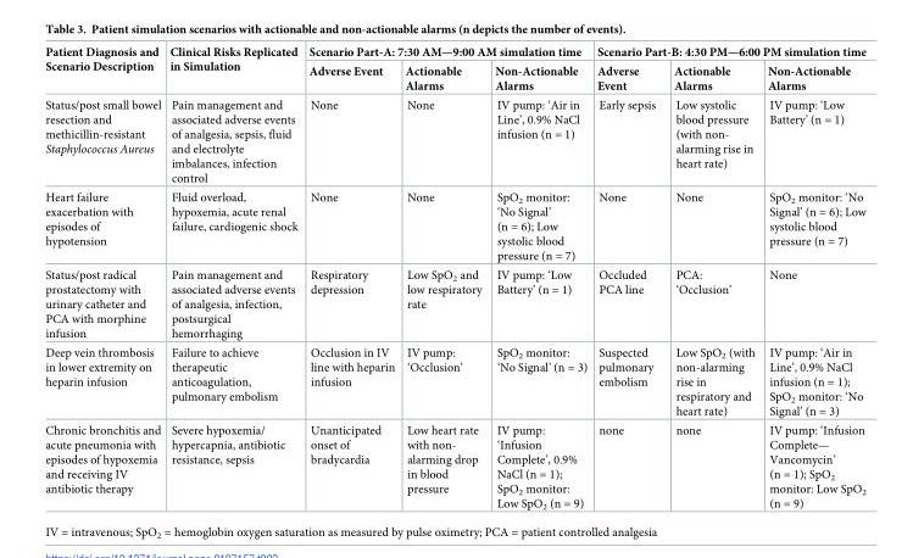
<table><thead><tr><td rowspan="2">Patient Diagnosis and Scenario Description</td><td rowspan="2">Clinical Risks Replicated in Simulation</td><td colspan="3">Scenario Part-A: 7:30 AM—9:00 AM simulation time</td><td colspan="3">Scenario Part-B: 4:30 PM—6:00 PM simulation time</td></tr><tr><td>Adverse Event</td><td>Actionable Alarms</td><td>Non-Actionable Alarms</td><td>Adverse Event</td><td>Actionable Alarms</td><td>Non-Actionable Alarms</td></tr></thead><tbody><tr><td>Status/post small bowel resection and methicillin-resistant Staphylococcus Aureus</td><td>Pain management and associated adverse events of analgesia, sepsis, fluid and electrolyte imbalances, infection control</td><td>None</td><td>None</td><td>IV pump: ‘Air in Line’, 0.9% NaCl infusion (n = 1)</td><td>Early sepsis</td><td>Low systolic blood pressure (with non- alarming rise in heart rate)</td><td>IV pump: ‘Low Battery’ (n = 1)</td></tr><tr><td>Heart failure exacerbation with episodes of hypotension</td><td>Fluid overload, hypoxemia, acute renal failure, cardiogenic shock</td><td>None</td><td>None</td><td>SpO<sub>2</sub> monitor: ‘No Signal’ (n = 6); Low systolic blood pressure (n = 7)</td><td>None</td><td>None</td><td>SpO<sub>2</sub> monitor: ‘No Signal’ (n = 6); Low systolic blood pressure (n = 7)</td></tr><tr><td>Status/post radical prostatectomy with urinary catheter and PCA with morphine infusion</td><td>Pain management and associated adverse events of analgesia, infection, postsurgical hemorrhaging</td><td>Respiratory depression</td><td>Low SpO<sub>2</sub> and low respiratory rate</td><td>IV pump: ‘Low Battery’ (n = 1)</td><td>Occluded PCA line</td><td>PCA: ‘Occlusion’</td><td>None</td></tr><tr><td>Deep vein thrombosis in lower extremity on heparin infusion</td><td>Failure to achieve therapeutic anticoagulation, pulmonary embolism</td><td>Occlusion in IV line with heparin infusion</td><td>IV pump: ‘Occlusion’</td><td>SpO<sub>2</sub> monitor: ‘No Signal’ (n = 3)</td><td>Suspected pulmonary embolism</td><td>Low SpO<sub>2</sub> (with non-alarming rise in respiratory and heart rate)</td><td>IV pump: ‘Air in Line’, 0.9% NaCl infusion (n = 1); SpO<sub>2</sub> monitor: ‘No Signal’ (n = 3)</td></tr><tr><td>Chronic bronchitis and acute pneumonia with episodes of hypoxemia and receiving IV antibiotic therapy</td><td>Severe hypoxemia/ hypercapnia, antibiotic resistance, sepsis</td><td>Unanticipated onset of bradycardia</td><td>Low heart rate with non- alarming drop in blood pressure</td><td>IV pump: ‘Infusion Complete’, 0.9% NaCl (n = 1); SpO<sub>2</sub> monitor: Low SpO<sub>2</sub> (n = 9)</td><td>none</td><td>none</td><td>IV pump: ‘Infusion Complete— Vancomycin’ (n = 1); SpO<sub>2</sub> monitor: Low SpO<sub>2</sub> (n = 9)</td></tr></tbody></table>